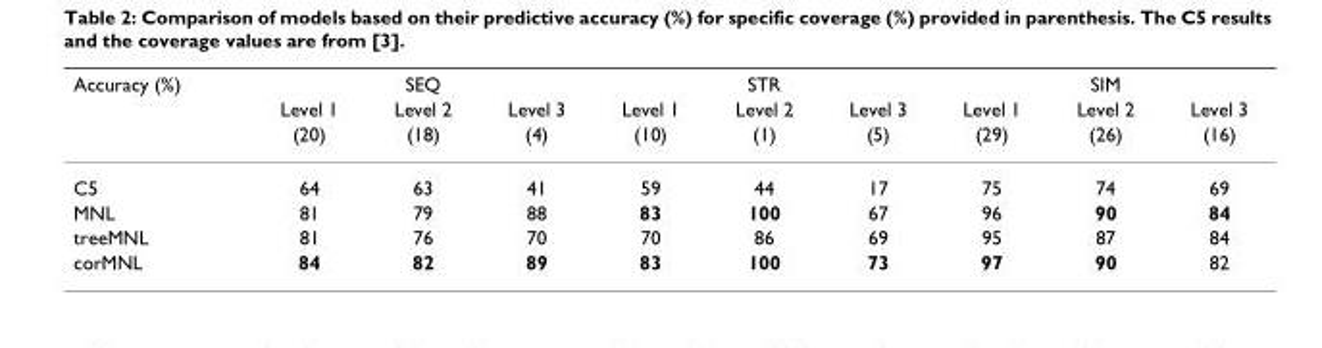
<table><thead><tr><td rowspan="3">Accuracy (%)</td><td colspan="3">SEQ</td><td colspan="3">STR</td><td colspan="3">SIM</td></tr><tr><td rowspan="2">Level 1 (20)</td><td rowspan="2">Level 2 (18)</td><td rowspan="2">Level 3 (4)</td><td rowspan="2">Level 1 (10)</td><td rowspan="2">Level 2 (1)</td><td rowspan="2">Level 3 (5)</td><td rowspan="2">Level 1 (29)</td><td rowspan="2">Level 2 (26)</td><td rowspan="2">Level 3 (16)</td></tr><tr></tr></thead><tbody><tr><td>C5</td><td>64</td><td>63</td><td>41</td><td>59</td><td>44</td><td>17</td><td>75</td><td>74</td><td>69</td></tr><tr><td>MNL</td><td>81</td><td>79</td><td>88</td><td>83</td><td>100</td><td>67</td><td>96</td><td>90</td><td>84</td></tr><tr><td>treeMNL</td><td>81</td><td>76</td><td>70</td><td>70</td><td>86</td><td>69</td><td>95</td><td>87</td><td>84</td></tr><tr><td>corMNL</td><td>84</td><td>82</td><td>89</td><td>83</td><td>100</td><td>73</td><td>97</td><td>90</td><td>82</td></tr></tbody></table>